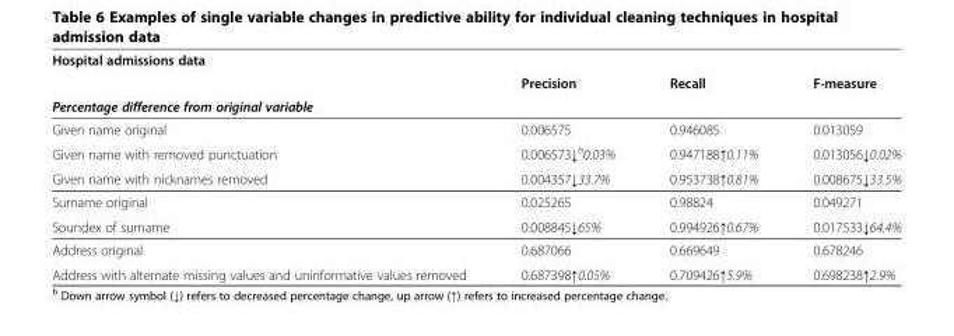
<table><thead><tr><td rowspan="2">Hospital admissions data</td><td rowspan="2">Precision</td><td rowspan="2">Recall</td><td rowspan="2">F-measure</td></tr><tr></tr><tr><td colspan="4">Percentage difference from original variable</td></tr></thead><tbody><tr><td>Given name original</td><td>0.006575</td><td>0.946085</td><td>0.013059</td></tr><tr><td>Given name with removed punctuation</td><td>0.006573↓<sup>b</sup>0.03%</td><td>0.947188↑0.11%</td><td>0.013056↓0.02%</td></tr><tr><td>Given name with nicknames removed</td><td>0.004357↓33.7%</td><td>0.953738↑0.81%</td><td>0.008675↓33.5%</td></tr><tr><td>Surname original</td><td>0.025265</td><td>0.98824</td><td>0.049271</td></tr><tr><td>Soundex of surname</td><td>0.008845↓65%</td><td>0.994926↑0.67%</td><td>0.017533↓64.4%</td></tr><tr><td>Address original</td><td>0.687066</td><td>0.669649</td><td>0.678246</td></tr><tr><td>Address with alternate missing values and uninformative values removed</td><td>0.687398↑0.05%</td><td>0.709426↑5.9%</td><td>0.698238↑2.9%</td></tr></tbody></table>